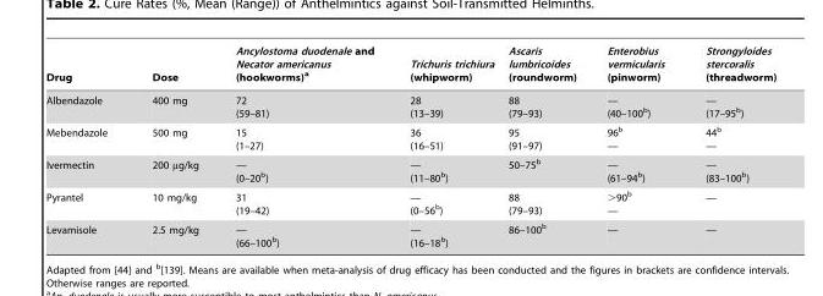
<table><thead><tr><td>Drug</td><td>Dose</td><td>Ancylostoma duodenale and Necator americanus (hookworms)<sup>a</sup></td><td>Trichuris trichiura (whipworm)</td><td>Ascaris lumbricoides (roundworm)</td><td>Enterobius vermicularis (pinworm)</td><td>Strongyloides stercoralis (threadworm)</td></tr></thead><tbody><tr><td>Albendazole</td><td>400 mg</td><td>72 (59–81)</td><td>28 (13–39)</td><td>88 (79–93)</td><td>— (40–100<sup>b</sup>)</td><td>— (17–95<sup>b</sup>)</td></tr><tr><td>Mebendazole</td><td>500 mg</td><td>15 (1–27)</td><td>36 (16–51)</td><td>95 (91–97)</td><td>96<sup>b</sup> —</td><td>44<sup>b</sup> —</td></tr><tr><td>Ivermectin</td><td>200 µg/kg</td><td>— (0–20<sup>b</sup>)</td><td>— (11–80<sup>b</sup>)</td><td>50–75<sup>b</sup></td><td>— (61–94<sup>b</sup>)</td><td>— (83–100<sup>b</sup>)</td></tr><tr><td>Pyrantel</td><td>10 mg/kg</td><td>31 (19–42)</td><td>— (0–56<sup>b</sup>)</td><td>88 (79–93)</td><td>&gt;90<sup>b</sup> —</td><td>—</td></tr><tr><td>Levamisole</td><td>2.5 mg/kg</td><td>— (66–100<sup>b</sup>)</td><td>— (16–18<sup>b</sup>)</td><td>86–100<sup>b</sup></td><td>—</td><td>—</td></tr></tbody></table>